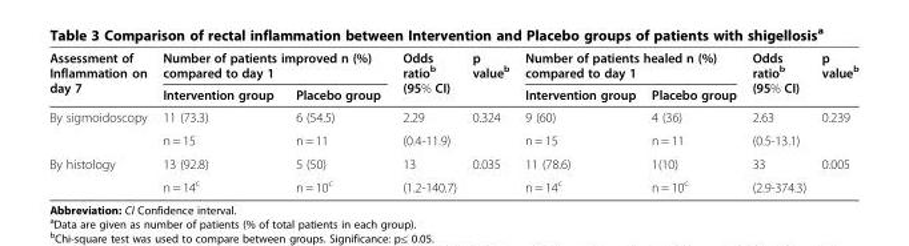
<table><thead><tr><td rowspan="2">Assessment of Inflammation on day 7</td><td colspan="2">Number of patients improved n (%) compared to day 1</td><td rowspan="2">Odds ratio<sup>b</sup> (95% CI)</td><td rowspan="2">p value<sup>b</sup></td><td colspan="2">Number of patients healed n (%) compared to day 1</td><td rowspan="2">Odds ratio<sup>b</sup> (95% CI)</td><td rowspan="2">p value<sup>b</sup></td></tr><tr><td>Intervention group</td><td>Placebo group</td><td>Intervention group</td><td>Placebo group</td></tr></thead><tbody><tr><td rowspan="2">By sigmoidoscopy</td><td>11 (73.3)</td><td>6 (54.5)</td><td>2.29</td><td rowspan="2">0.324</td><td>9 (60)</td><td>4 (36)</td><td>2.63</td><td rowspan="2">0.239</td></tr><tr><td>n = 15</td><td>n = 11</td><td>(0.4-11.9)</td><td>n = 15</td><td>n = 11</td><td>(0.5-13.1)</td></tr><tr><td rowspan="2">By histology</td><td>13 (92.8)</td><td>5 (50)</td><td>13</td><td>0.035</td><td>11 (78.6)</td><td>1(10)</td><td>33</td><td>0.005</td></tr><tr><td>n = 14<sup>c</sup></td><td>n = 10<sup>c</sup></td><td>(1.2-140.7)</td><td></td><td>n = 14<sup>c</sup></td><td>n = 10<sup>c</sup></td><td>(2.9-374.3)</td><td></td></tr></tbody></table>